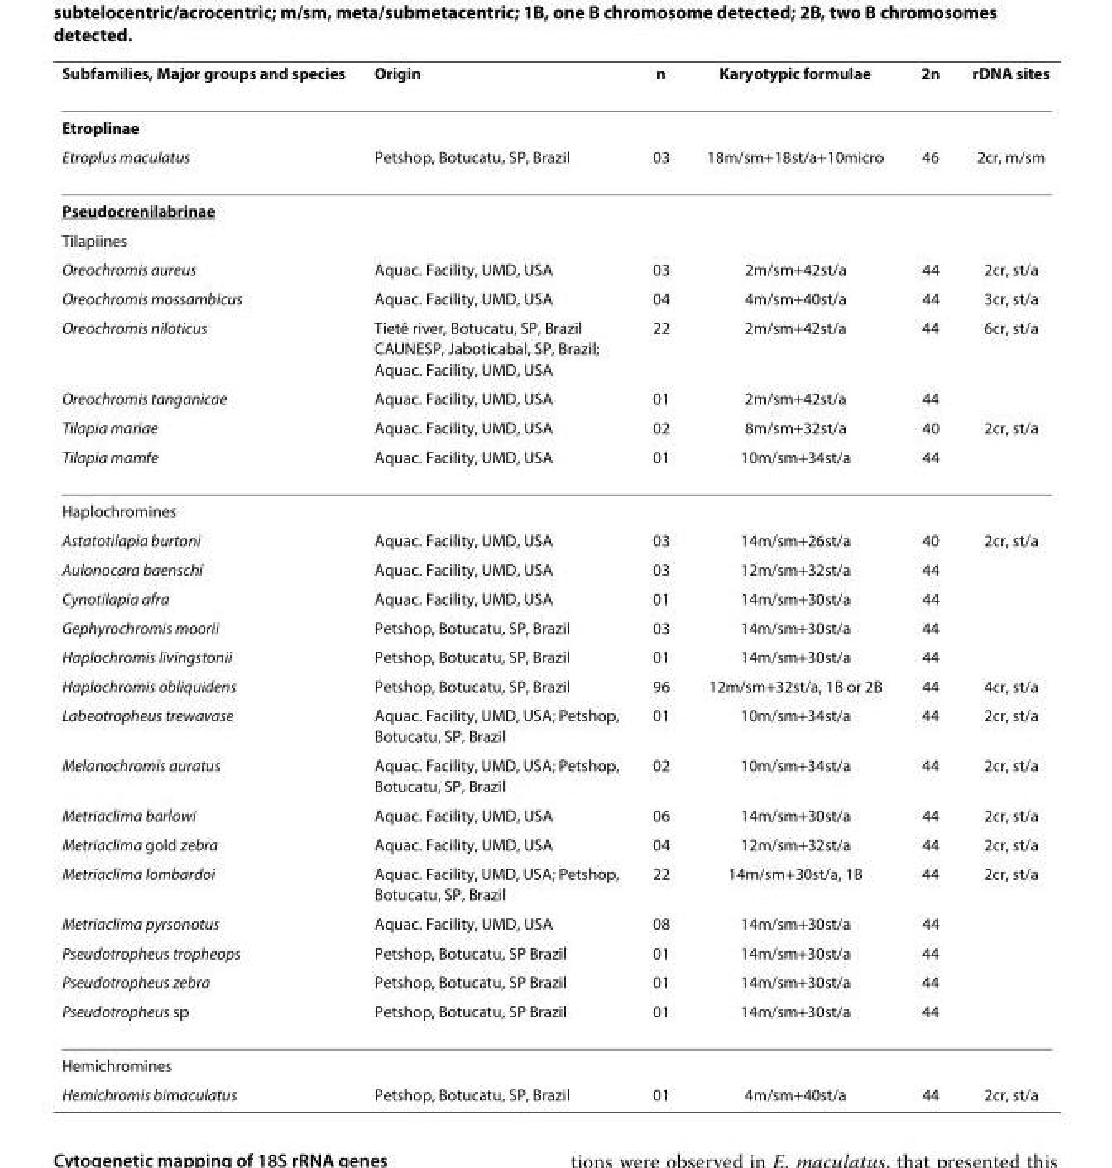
<table><thead><tr><td>Subfamilies, Major groups and species</td><td>Origin</td><td>n</td><td>Karyotypic formulae</td><td>2n</td><td>rDNA sites</td></tr></thead><tbody><tr><td colspan="6">Etroplinae</td></tr><tr><td>Etroplus maculatus</td><td>Petshop, Botucatu, SP, Brazil</td><td>03</td><td>18m/sm+18st/a+10micro</td><td>46</td><td>2cr, m/sm</td></tr><tr><td colspan="6">Pseudocrenilabrinae</td></tr><tr><td colspan="6">Tilapiines</td></tr><tr><td>Oreochromis aureus</td><td>Aquac. Facility, UMD, USA</td><td>03</td><td>2m/sm+42st/a</td><td>44</td><td>2cr, st/a</td></tr><tr><td>Oreochromis mossambicus</td><td>Aquac. Facility, UMD, USA</td><td>04</td><td>4m/sm+40st/a</td><td>44</td><td>3cr, st/a</td></tr><tr><td>Oreochromis niloticus</td><td>Tietê river, Botucatu, SP, Brazil CAUNESP, Jaboticabal, SP, Brazil; Aquac. Facility, UMD, USA</td><td>22</td><td>2m/sm+42st/a</td><td>44</td><td>6cr, st/a</td></tr><tr><td>Oreochromis tanganicae</td><td>Aquac. Facility, UMD, USA</td><td>01</td><td>2m/sm+42st/a</td><td>44</td><td></td></tr><tr><td>Tilapia mariae</td><td>Aquac. Facility, UMD, USA</td><td>02</td><td>8m/sm+32st/a</td><td>40</td><td>2cr, st/a</td></tr><tr><td>Tilapia mamfe</td><td>Aquac. Facility, UMD, USA</td><td>01</td><td>10m/sm+34st/a</td><td>44</td><td></td></tr><tr><td colspan="6">Haplochromines</td></tr><tr><td>Astatotilapia burtoni</td><td>Aquac. Facility, UMD, USA</td><td>03</td><td>14m/sm+26st/a</td><td>40</td><td>2cr, st/a</td></tr><tr><td>Aulonocara baenschi</td><td>Aquac. Facility, UMD, USA</td><td>03</td><td>12m/sm+32st/a</td><td>44</td><td></td></tr><tr><td>Cynotilapia afra</td><td>Aquac. Facility, UMD, USA</td><td>01</td><td>14m/sm+30st/a</td><td>44</td><td></td></tr><tr><td>Gephyrochromis moorii</td><td>Petshop, Botucatu, SP, Brazil</td><td>03</td><td>14m/sm+30st/a</td><td>44</td><td></td></tr><tr><td>Haplochromis livingstonii</td><td>Petshop, Botucatu, SP, Brazil</td><td>01</td><td>14m/sm+30st/a</td><td>44</td><td></td></tr><tr><td>Haplochromis obliquidens</td><td>Petshop, Botucatu, SP, Brazil</td><td>96</td><td>12m/sm+32st/a, 1B or 2B</td><td>44</td><td>4cr, st/a</td></tr><tr><td>Labeotropheus trewavase</td><td>Aquac. Facility, UMD, USA; Petshop, Botucatu, SP, Brazil</td><td>01</td><td>10m/sm+34st/a</td><td>44</td><td>2cr, st/a</td></tr><tr><td>Melanochromis auratus</td><td>Aquac. Facility, UMD, USA; Petshop, Botucatu, SP, Brazil</td><td>02</td><td>10m/sm+34st/a</td><td>44</td><td>2cr, st/a</td></tr><tr><td>Metriaclima barlowi</td><td>Aquac. Facility, UMD, USA</td><td>06</td><td>14m/sm+30st/a</td><td>44</td><td>2cr, st/a</td></tr><tr><td>Metriaclima gold zebra</td><td>Aquac. Facility, UMD, USA</td><td>04</td><td>12m/sm+32st/a</td><td>44</td><td>2cr, st/a</td></tr><tr><td>Metriaclima lombardoi</td><td>Aquac. Facility, UMD, USA; Petshop, Botucatu, SP, Brazil</td><td>22</td><td>14m/sm+30st/a, 1B</td><td>44</td><td>2cr, st/a</td></tr><tr><td>Metriaclima pyrsonotus</td><td>Aquac. Facility, UMD, USA</td><td>08</td><td>14m/sm+30st/a</td><td>44</td><td></td></tr><tr><td>Pseudotropheus tropheops</td><td>Petshop, Botucatu, SP Brazil</td><td>01</td><td>14m/sm+30st/a</td><td>44</td><td></td></tr><tr><td>Pseudotropheus zebra</td><td>Petshop, Botucatu, SP Brazil</td><td>01</td><td>14m/sm+30st/a</td><td>44</td><td></td></tr><tr><td>Pseudotropheus sp</td><td>Petshop, Botucatu, SP Brazil</td><td>01</td><td>14m/sm+30st/a</td><td>44</td><td></td></tr><tr><td colspan="6">Hemichromines</td></tr><tr><td>Hemichromis bimaculatus</td><td>Petshop, Botucatu, SP, Brazil</td><td>01</td><td>4m/sm+40st/a</td><td>44</td><td>2cr, st/a</td></tr></tbody></table>